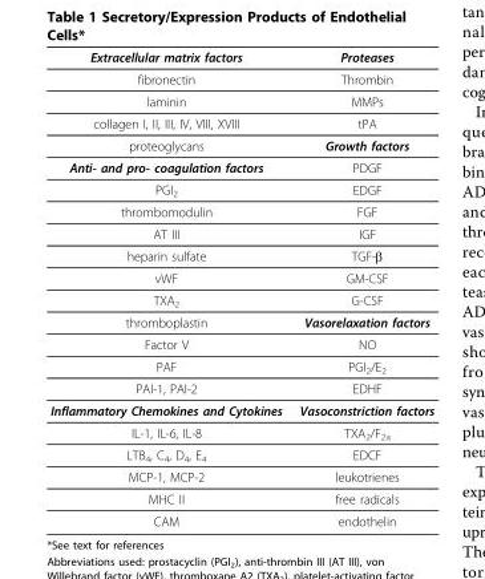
<table><thead><tr><td>Extracellular matrix factors</td><td>Proteases</td></tr></thead><tbody><tr><td>fibronectin</td><td>Thrombin</td></tr><tr><td>laminin</td><td>MMPs</td></tr><tr><td>collagen I, II, III, IV, VIII, XVIII</td><td>tPA</td></tr><tr><td>proteoglycans</td><td>Growth factors</td></tr><tr><td>Anti- and pro- coagulation factors</td><td>PDGF</td></tr><tr><td>PGI<sub>2</sub></td><td>EDGF</td></tr><tr><td>thrombomodulin</td><td>FGF</td></tr><tr><td>AT III</td><td>IGF</td></tr><tr><td>heparin sulfate</td><td>TGF-β</td></tr><tr><td>vWF</td><td>GM-CSF</td></tr><tr><td>TXA<sub>2</sub></td><td>G-CSF</td></tr><tr><td>thromboplastin</td><td>Vasorelaxation factors</td></tr><tr><td>Factor V</td><td>NO</td></tr><tr><td>PAF</td><td>PGI<sub>2</sub>/E<sub>2</sub></td></tr><tr><td>PAI-1, PAI-2</td><td>EDHF</td></tr><tr><td>Inflammatory Chemokines and Cytokines</td><td>Vasoconstriction factors</td></tr><tr><td>IL-1, IL-6, IL-8</td><td>TXA<sub>2</sub>/F<sub>2a</sub></td></tr><tr><td>LTB<sub>4</sub>, C<sub>4</sub>, D<sub>4</sub>, E<sub>4</sub></td><td>EDCF</td></tr><tr><td>MCP-1, MCP-2</td><td>leukotrienes</td></tr><tr><td>MHC II</td><td>free radicals</td></tr><tr><td>CAM</td><td>endothelin</td></tr></tbody></table>